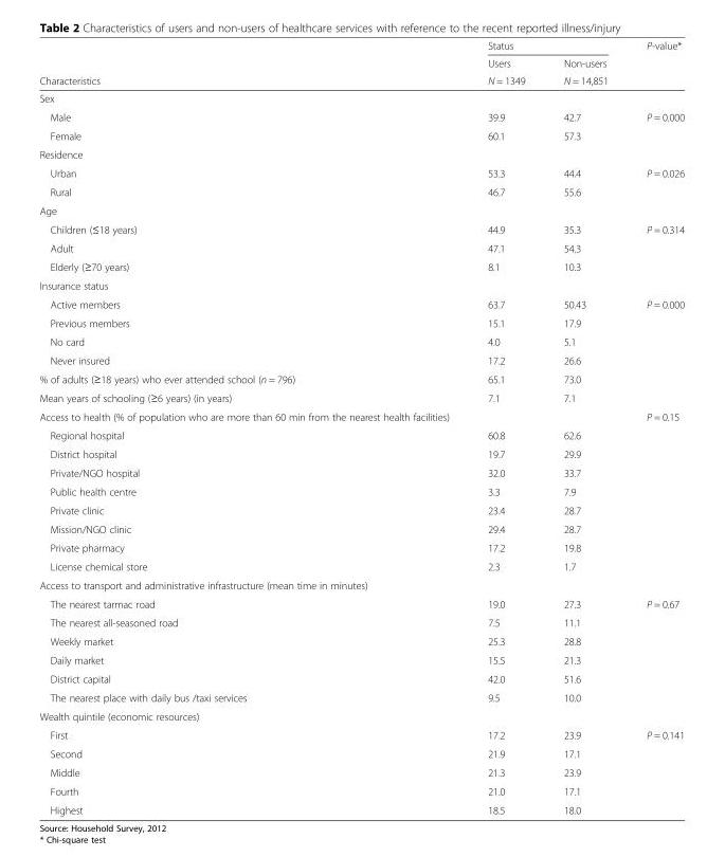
<table><thead><tr><td rowspan="3">Characteristics</td><td colspan="2">Status</td><td rowspan="3">P-value*</td></tr><tr><td rowspan="2">Users N = 1349</td><td rowspan="2">Non-users N = 14,851</td></tr><tr></tr></thead><tbody><tr><td colspan="4">Sex</td></tr><tr><td>Male</td><td>39.9</td><td>42.7</td><td>P = 0.000</td></tr><tr><td>Female</td><td>60.1</td><td>57.3</td><td></td></tr><tr><td colspan="4">Residence</td></tr><tr><td>Urban</td><td>53.3</td><td>44.4</td><td>P = 0.026</td></tr><tr><td>Rural</td><td>46.7</td><td>55.6</td><td></td></tr><tr><td colspan="4">Age</td></tr><tr><td>Children (≤18 years)</td><td>44.9</td><td>35.3</td><td>P = 0.314</td></tr><tr><td>Adult</td><td>47.1</td><td>54.3</td><td></td></tr><tr><td>Elderly (≥70 years)</td><td>8.1</td><td>10.3</td><td></td></tr><tr><td colspan="4">Insurance status</td></tr><tr><td>Active members</td><td>63.7</td><td>50.43</td><td>P = 0.000</td></tr><tr><td>Previous members</td><td>15.1</td><td>17.9</td><td></td></tr><tr><td>No card</td><td>4.0</td><td>5.1</td><td></td></tr><tr><td>Never insured</td><td>17.2</td><td>26.6</td><td></td></tr><tr><td>% of adults (≥18 years) who ever attended school (n = 796)</td><td>65.1</td><td>73.0</td><td></td></tr><tr><td>Mean years of schooling (≥6 years) (in years)</td><td>7.1</td><td>7.1</td><td></td></tr><tr><td>Access to health (% of population who are more than 60 min from the nearest health facilities)</td><td></td><td></td><td>P = 0.15</td></tr><tr><td>Regional hospital</td><td>60.8</td><td>62.6</td><td></td></tr><tr><td>District hospital</td><td>19.7</td><td>29.9</td><td></td></tr><tr><td>Private/NGO hospital</td><td>32.0</td><td>33.7</td><td></td></tr><tr><td>Public health centre</td><td>3.3</td><td>7.9</td><td></td></tr><tr><td>Private clinic</td><td>23.4</td><td>28.7</td><td></td></tr><tr><td>Mission/NGO clinic</td><td>29.4</td><td>28.7</td><td></td></tr><tr><td>Private pharmacy</td><td>17.2</td><td>19.8</td><td></td></tr><tr><td>License chemical store</td><td>2.3</td><td>1.7</td><td></td></tr><tr><td colspan="4">Access to transport and administrative infrastructure (mean time in minutes)</td></tr><tr><td>The nearest tarmac road</td><td>19.0</td><td>27.3</td><td>P = 0.67</td></tr><tr><td>The nearest all-seasoned road</td><td>7.5</td><td>11.1</td><td></td></tr><tr><td>Weekly market</td><td>25.3</td><td>28.8</td><td></td></tr><tr><td>Daily market</td><td>15.5</td><td>21.3</td><td></td></tr><tr><td>District capital</td><td>42.0</td><td>51.6</td><td></td></tr><tr><td>The nearest place with daily bus /taxi services</td><td>9.5</td><td>10.0</td><td></td></tr><tr><td colspan="4">Wealth quintile (economic resources)</td></tr><tr><td>First</td><td>17.2</td><td>23.9</td><td>P = 0.141</td></tr><tr><td>Second</td><td>21.9</td><td>17.1</td><td></td></tr><tr><td>Middle</td><td>21.3</td><td>23.9</td><td></td></tr><tr><td>Fourth</td><td>21.0</td><td>17.1</td><td></td></tr><tr><td>Highest</td><td>18.5</td><td>18.0</td><td></td></tr></tbody></table>